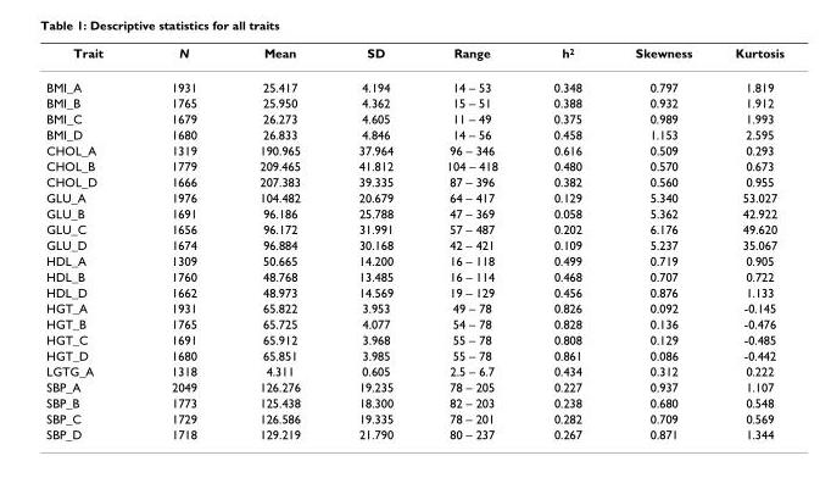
<table><thead><tr><td>Trait</td><td>N</td><td>Mean</td><td>SD</td><td>Range</td><td>h2</td><td>Skewness</td><td>Kurtosis</td></tr></thead><tbody><tr><td>BMI_A</td><td>1931</td><td>25.417</td><td>4.194</td><td>14 – 53</td><td>0.348</td><td>0.797</td><td>1.819</td></tr><tr><td>BMI_B</td><td>1765</td><td>25.950</td><td>4.362</td><td>15 – 51</td><td>0.388</td><td>0.932</td><td>1.912</td></tr><tr><td>BMI_C</td><td>1679</td><td>26.273</td><td>4.605</td><td>11 – 49</td><td>0.375</td><td>0.989</td><td>1.993</td></tr><tr><td>BMI_D</td><td>1680</td><td>26.833</td><td>4.846</td><td>14 – 56</td><td>0.458</td><td>1.153</td><td>2.595</td></tr><tr><td>CHOL_A</td><td>1319</td><td>190.965</td><td>37.964</td><td>96 – 346</td><td>0.616</td><td>0.509</td><td>0.293</td></tr><tr><td>CHOL_B</td><td>1779</td><td>209.465</td><td>41.812</td><td>104 – 418</td><td>0.480</td><td>0.570</td><td>0.673</td></tr><tr><td>CHOL_D</td><td>1666</td><td>207.383</td><td>39.335</td><td>87 – 396</td><td>0.382</td><td>0.560</td><td>0.955</td></tr><tr><td>GLU_A</td><td>1976</td><td>104.482</td><td>20.679</td><td>64 – 417</td><td>0.129</td><td>5.340</td><td>53.027</td></tr><tr><td>GLU_B</td><td>1691</td><td>96.186</td><td>25.788</td><td>47 – 369</td><td>0.058</td><td>5.362</td><td>42.922</td></tr><tr><td>GLU_C</td><td>1656</td><td>96.172</td><td>31.991</td><td>57 – 487</td><td>0.202</td><td>6.176</td><td>49.620</td></tr><tr><td>GLU_D</td><td>1674</td><td>96.884</td><td>30.168</td><td>42 – 421</td><td>0.109</td><td>5.237</td><td>35.067</td></tr><tr><td>HDL_A</td><td>1309</td><td>50.665</td><td>14.200</td><td>16 – 118</td><td>0.499</td><td>0.719</td><td>0.905</td></tr><tr><td>HDL_B</td><td>1760</td><td>48.768</td><td>13.485</td><td>16 – 114</td><td>0.468</td><td>0.707</td><td>0.722</td></tr><tr><td>HDL_D</td><td>1662</td><td>48.973</td><td>14.569</td><td>19 – 129</td><td>0.456</td><td>0.876</td><td>1.133</td></tr><tr><td>HGT_A</td><td>1931</td><td>65.822</td><td>3.953</td><td>49 – 78</td><td>0.826</td><td>0.092</td><td>-0.145</td></tr><tr><td>HGT_B</td><td>1765</td><td>65.725</td><td>4.077</td><td>54 – 78</td><td>0.828</td><td>0.136</td><td>-0.476</td></tr><tr><td>HGT_C</td><td>1691</td><td>65.912</td><td>3.968</td><td>55 – 78</td><td>0.808</td><td>0.129</td><td>-0.485</td></tr><tr><td>HGT_D</td><td>1680</td><td>65.851</td><td>3.985</td><td>55 – 78</td><td>0.861</td><td>0.086</td><td>-0.442</td></tr><tr><td>LGTG_A</td><td>1318</td><td>4.311</td><td>0.605</td><td>2.5 – 6.7</td><td>0.434</td><td>0.312</td><td>0.222</td></tr><tr><td>SBP_A</td><td>2049</td><td>126.276</td><td>19.235</td><td>78 – 205</td><td>0.227</td><td>0.937</td><td>1.107</td></tr><tr><td>SBP_B</td><td>1773</td><td>125.438</td><td>18.300</td><td>82 – 203</td><td>0.238</td><td>0.680</td><td>0.548</td></tr><tr><td>SBP_C</td><td>1729</td><td>126.586</td><td>19.335</td><td>78 – 201</td><td>0.282</td><td>0.709</td><td>0.569</td></tr><tr><td>SBP_D</td><td>1718</td><td>129.219</td><td>21.790</td><td>80 – 237</td><td>0.267</td><td>0.871</td><td>1.344</td></tr></tbody></table>